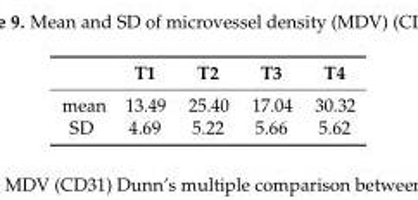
<table><thead><tr><td></td><td>T1</td><td>T2</td><td>T3</td><td>T4</td></tr></thead><tbody><tr><td>mean</td><td>13.49</td><td>25.40</td><td>17.04</td><td>30.32</td></tr><tr><td>SD</td><td>4.69</td><td>5.22</td><td>5.66</td><td>5.62</td></tr></tbody></table>